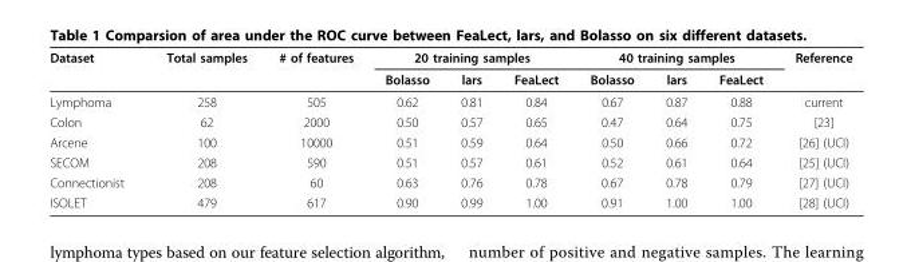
<table><thead><tr><td rowspan="2">Dataset</td><td rowspan="2">Total samples</td><td rowspan="2"># of features</td><td colspan="3">20 training samples</td><td colspan="3">40 training samples</td><td rowspan="2">Reference</td></tr><tr><td>Bolasso</td><td>lars</td><td>FeaLect</td><td>Bolasso</td><td>lars</td><td>FeaLect</td></tr></thead><tbody><tr><td>Lymphoma</td><td>258</td><td>505</td><td>0.62</td><td>0.81</td><td>0.84</td><td>0.67</td><td>0.87</td><td>0.88</td><td>current</td></tr><tr><td>Colon</td><td>62</td><td>2000</td><td>0.50</td><td>0.57</td><td>0.65</td><td>0.47</td><td>0.64</td><td>0.75</td><td>[23]</td></tr><tr><td>Arcene</td><td>100</td><td>10000</td><td>0.51</td><td>0.59</td><td>0.64</td><td>0.50</td><td>0.66</td><td>0.72</td><td>[26] (UCI)</td></tr><tr><td>SECOM</td><td>208</td><td>590</td><td>0.51</td><td>0.57</td><td>0.61</td><td>0.52</td><td>0.61</td><td>0.64</td><td>[25] (UCI)</td></tr><tr><td>Connectionist</td><td>208</td><td>60</td><td>0.63</td><td>0.76</td><td>0.78</td><td>0.67</td><td>0.78</td><td>0.79</td><td>[27] (UCI)</td></tr><tr><td>ISOLET</td><td>479</td><td>617</td><td>0.90</td><td>0.99</td><td>1.00</td><td>0.91</td><td>1.00</td><td>1.00</td><td>[28] (UCI)</td></tr></tbody></table>